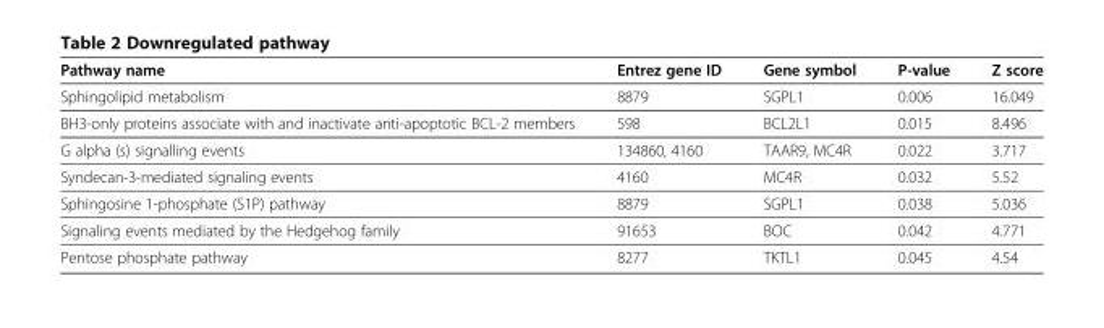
<table><thead><tr><td>Pathway name</td><td>Entrez gene ID</td><td>Gene symbol</td><td>P-value</td><td>Z score</td></tr></thead><tbody><tr><td>Sphingolipid metabolism</td><td>8879</td><td>SGPL1</td><td>0.006</td><td>16.049</td></tr><tr><td>BH3-only proteins associate with and inactivate anti-apoptotic BCL-2 members</td><td>598</td><td>BCL2L1</td><td>0.015</td><td>8.496</td></tr><tr><td>G alpha (s) signalling events</td><td>134860, 4160</td><td>TAAR9, MC4R</td><td>0.022</td><td>3.717</td></tr><tr><td>Syndecan-3-mediated signaling events</td><td>4160</td><td>MC4R</td><td>0.032</td><td>5.52</td></tr><tr><td>Sphingosine 1-phosphate (S1P) pathway</td><td>8879</td><td>SGPL1</td><td>0.038</td><td>5.036</td></tr><tr><td>Signaling events mediated by the Hedgehog family</td><td>91653</td><td>BOC</td><td>0.042</td><td>4.771</td></tr><tr><td>Pentose phosphate pathway</td><td>8277</td><td>TKTL1</td><td>0.045</td><td>4.54</td></tr></tbody></table>